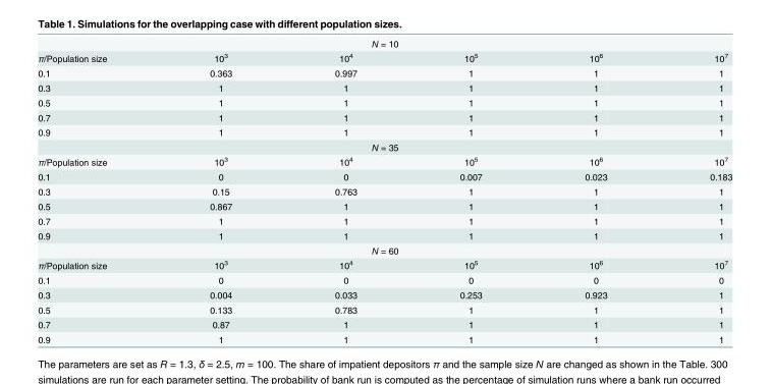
<table><tbody><tr><td colspan="6">N = 10</td></tr><tr><td>π/Population size</td><td>10<sup>3</sup></td><td>10<sup>4</sup></td><td>10<sup>5</sup></td><td>10<sup>6</sup></td><td>10<sup>7</sup></td></tr><tr><td>0.1</td><td>0.363</td><td>0.997</td><td>1</td><td>1</td><td>1</td></tr><tr><td>0.3</td><td>1</td><td>1</td><td>1</td><td>1</td><td>1</td></tr><tr><td>0.5</td><td>1</td><td>1</td><td>1</td><td>1</td><td>1</td></tr><tr><td>0.7</td><td>1</td><td>1</td><td>1</td><td>1</td><td>1</td></tr><tr><td>0.9</td><td>1</td><td>1</td><td>1</td><td>1</td><td>1</td></tr><tr><td colspan="6">N = 35</td></tr><tr><td>π/Population size</td><td>10<sup>3</sup></td><td>10<sup>4</sup></td><td>10<sup>5</sup></td><td>10<sup>6</sup></td><td>10<sup>7</sup></td></tr><tr><td>0.1</td><td>0</td><td>0</td><td>0.007</td><td>0.023</td><td>0.183</td></tr><tr><td>0.3</td><td>0.15</td><td>0.763</td><td>1</td><td>1</td><td>1</td></tr><tr><td>0.5</td><td>0.867</td><td>1</td><td>1</td><td>1</td><td>1</td></tr><tr><td>0.7</td><td>1</td><td>1</td><td>1</td><td>1</td><td>1</td></tr><tr><td>0.9</td><td>1</td><td>1</td><td>1</td><td>1</td><td>1</td></tr><tr><td colspan="6">N = 60</td></tr><tr><td>π/Population size</td><td>10<sup>3</sup></td><td>10<sup>4</sup></td><td>10<sup>5</sup></td><td>10<sup>6</sup></td><td>10<sup>7</sup></td></tr><tr><td>0.1</td><td>0</td><td>0</td><td>0</td><td>0</td><td>0</td></tr><tr><td>0.3</td><td>0.004</td><td>0.033</td><td>0.253</td><td>0.923</td><td>1</td></tr><tr><td>0.5</td><td>0.133</td><td>0.783</td><td>1</td><td>1</td><td>1</td></tr><tr><td>0.7</td><td>0.87</td><td>1</td><td>1</td><td>1</td><td>1</td></tr><tr><td>0.9</td><td>1</td><td>1</td><td>1</td><td>1</td><td>1</td></tr></tbody></table>